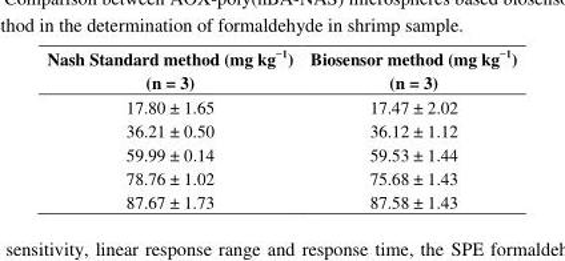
<table><thead><tr><td>Nash Standard method (mg kg<sup>−1</sup>) (n = 3)</td><td>Biosensor method (mg kg<sup>−1</sup>) (n = 3)</td></tr></thead><tbody><tr><td>17.80 ± 1.65</td><td>17.47 ± 2.02</td></tr><tr><td>36.21 ± 0.50</td><td>36.12 ± 1.12</td></tr><tr><td>59.99 ± 0.14</td><td>59.53 ± 1.44</td></tr><tr><td>78.76 ± 1.02</td><td>75.68 ± 1.43</td></tr><tr><td>87.67 ± 1.73</td><td>87.58 ± 1.43</td></tr></tbody></table>